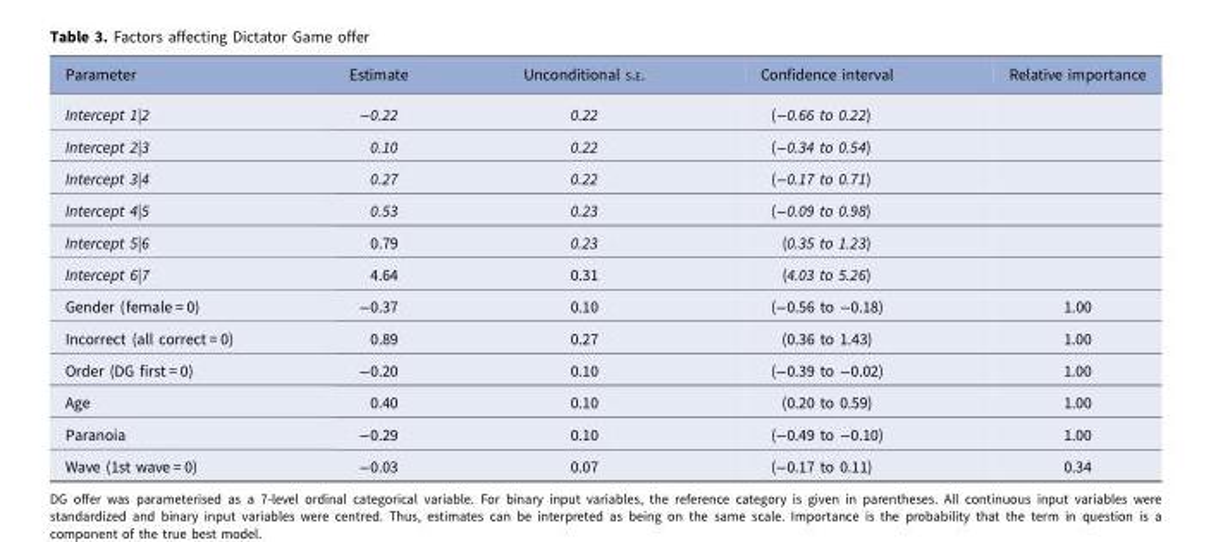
<table><thead><tr><td>Parameter</td><td>Estimate</td><td>Unconditional S.E.</td><td>Confidence interval</td><td>Relative importance</td></tr></thead><tbody><tr><td>Intercept 1|2</td><td>−0.22</td><td>0.22</td><td>(−0.66 to 0.22)</td><td></td></tr><tr><td>Intercept 2|3</td><td>0.10</td><td>0.22</td><td>(−0.34 to 0.54)</td><td></td></tr><tr><td>Intercept 3|4</td><td>0.27</td><td>0.22</td><td>(−0.17 to 0.71)</td><td></td></tr><tr><td>Intercept 4|5</td><td>0.53</td><td>0.23</td><td>(−0.09 to 0.98)</td><td></td></tr><tr><td>Intercept 5|6</td><td>0.79</td><td>0.23</td><td>(0.35 to 1.23)</td><td></td></tr><tr><td>Intercept 6|7</td><td>4.64</td><td>0.31</td><td>(4.03 to 5.26)</td><td></td></tr><tr><td>Gender (female = 0)</td><td>−0.37</td><td>0.10</td><td>(−0.56 to −0.18)</td><td>1.00</td></tr><tr><td>Incorrect (all correct = 0)</td><td>0.89</td><td>0.27</td><td>(0.36 to 1.43)</td><td>1.00</td></tr><tr><td>Order (DG first = 0)</td><td>−0.20</td><td>0.10</td><td>(−0.39 to −0.02)</td><td>1.00</td></tr><tr><td>Age</td><td>0.40</td><td>0.10</td><td>(0.20 to 0.59)</td><td>1.00</td></tr><tr><td>Paranoia</td><td>−0.29</td><td>0.10</td><td>(−0.49 to −0.10)</td><td>1.00</td></tr><tr><td>Wave (1st wave = 0)</td><td>−0.03</td><td>0.07</td><td>(−0.17 to 0.11)</td><td>0.34</td></tr></tbody></table>